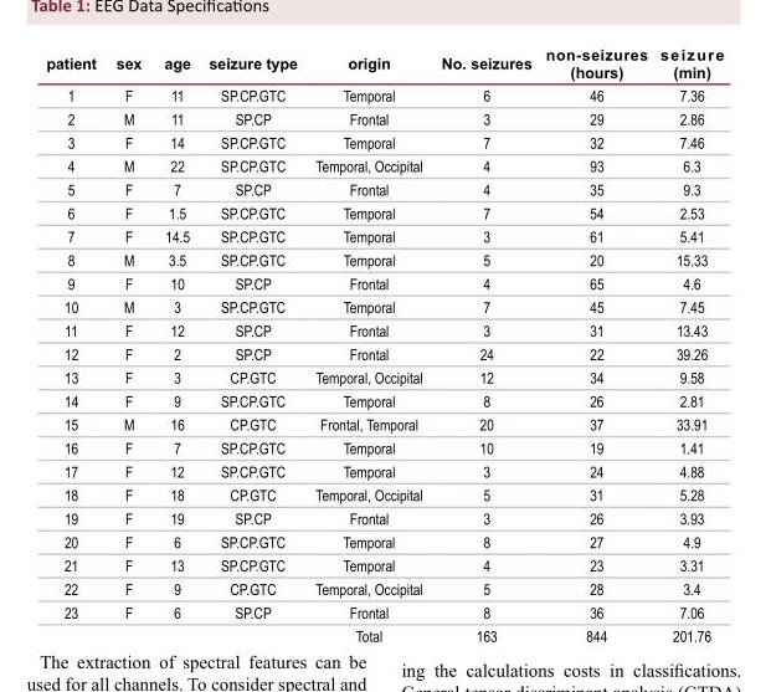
<table><thead><tr><td>patient</td><td>sex</td><td>age</td><td>seizure type</td><td>origin</td><td>No. seizures</td><td>non-seizures (hours)</td><td>seizure (min)</td></tr></thead><tbody><tr><td>1</td><td>F</td><td>11</td><td>SP.CP.GTC</td><td>Temporal</td><td>6</td><td>46</td><td>7.36</td></tr><tr><td>2</td><td>M</td><td>11</td><td>SP.CP</td><td>Frontal</td><td>3</td><td>29</td><td>2.86</td></tr><tr><td>3</td><td>F</td><td>14</td><td>SP.CP.GTC</td><td>Temporal</td><td>7</td><td>32</td><td>7.46</td></tr><tr><td>4</td><td>M</td><td>22</td><td>SP.CP.GTC</td><td>Temporal, Occipital</td><td>4</td><td>93</td><td>6.3</td></tr><tr><td>5</td><td>F</td><td>7</td><td>SP.CP</td><td>Frontal</td><td>4</td><td>35</td><td>9.3</td></tr><tr><td>6</td><td>F</td><td>1.5</td><td>SP.CP.GTC</td><td>Temporal</td><td>7</td><td>54</td><td>2.53</td></tr><tr><td>7</td><td>F</td><td>14.5</td><td>SP.CP.GTC</td><td>Temporal</td><td>3</td><td>61</td><td>5.41</td></tr><tr><td>8</td><td>M</td><td>3.5</td><td>SP.CP.GTC</td><td>Temporal</td><td>5</td><td>20</td><td>15.33</td></tr><tr><td>9</td><td>F</td><td>10</td><td>SP.CP</td><td>Frontal</td><td>4</td><td>65</td><td>4.6</td></tr><tr><td>10</td><td>M</td><td>3</td><td>SP.CP.GTC</td><td>Temporal</td><td>7</td><td>45</td><td>7.45</td></tr><tr><td>11</td><td>F</td><td>12</td><td>SP.CP</td><td>Frontal</td><td>3</td><td>31</td><td>13.43</td></tr><tr><td>12</td><td>F</td><td>2</td><td>SP.CP</td><td>Frontal</td><td>24</td><td>22</td><td>39.26</td></tr><tr><td>13</td><td>F</td><td>3</td><td>CP.GTC</td><td>Temporal, Occipital</td><td>12</td><td>34</td><td>9.58</td></tr><tr><td>14</td><td>F</td><td>9</td><td>SP.CP.GTC</td><td>Temporal</td><td>8</td><td>26</td><td>2.81</td></tr><tr><td>15</td><td>M</td><td>16</td><td>CP.GTC</td><td>Frontal, Temporal</td><td>20</td><td>37</td><td>33.91</td></tr><tr><td>16</td><td>F</td><td>7</td><td>SP.CP.GTC</td><td>Temporal</td><td>10</td><td>19</td><td>1.41</td></tr><tr><td>17</td><td>F</td><td>12</td><td>SP.CP.GTC</td><td>Temporal</td><td>3</td><td>24</td><td>4.88</td></tr><tr><td>18</td><td>F</td><td>18</td><td>CP.GTC</td><td>Temporal, Occipital</td><td>5</td><td>31</td><td>5.28</td></tr><tr><td>19</td><td>F</td><td>19</td><td>SP.CP</td><td>Frontal</td><td>3</td><td>26</td><td>3.93</td></tr><tr><td>20</td><td>F</td><td>6</td><td>SP.CP.GTC</td><td>Temporal</td><td>8</td><td>27</td><td>4.9</td></tr><tr><td>21</td><td>F</td><td>13</td><td>SP.CP.GTC</td><td>Temporal</td><td>4</td><td>23</td><td>3.31</td></tr><tr><td>22</td><td>F</td><td>9</td><td>CP.GTC</td><td>Temporal, Occipital</td><td>5</td><td>28</td><td>3.4</td></tr><tr><td rowspan="2">23</td><td>F</td><td>6</td><td>SP.CP</td><td>Frontal</td><td>8</td><td>36</td><td>7.06</td></tr><tr><td></td><td></td><td></td><td>Total</td><td>163</td><td>844</td><td>201.76</td></tr></tbody></table>